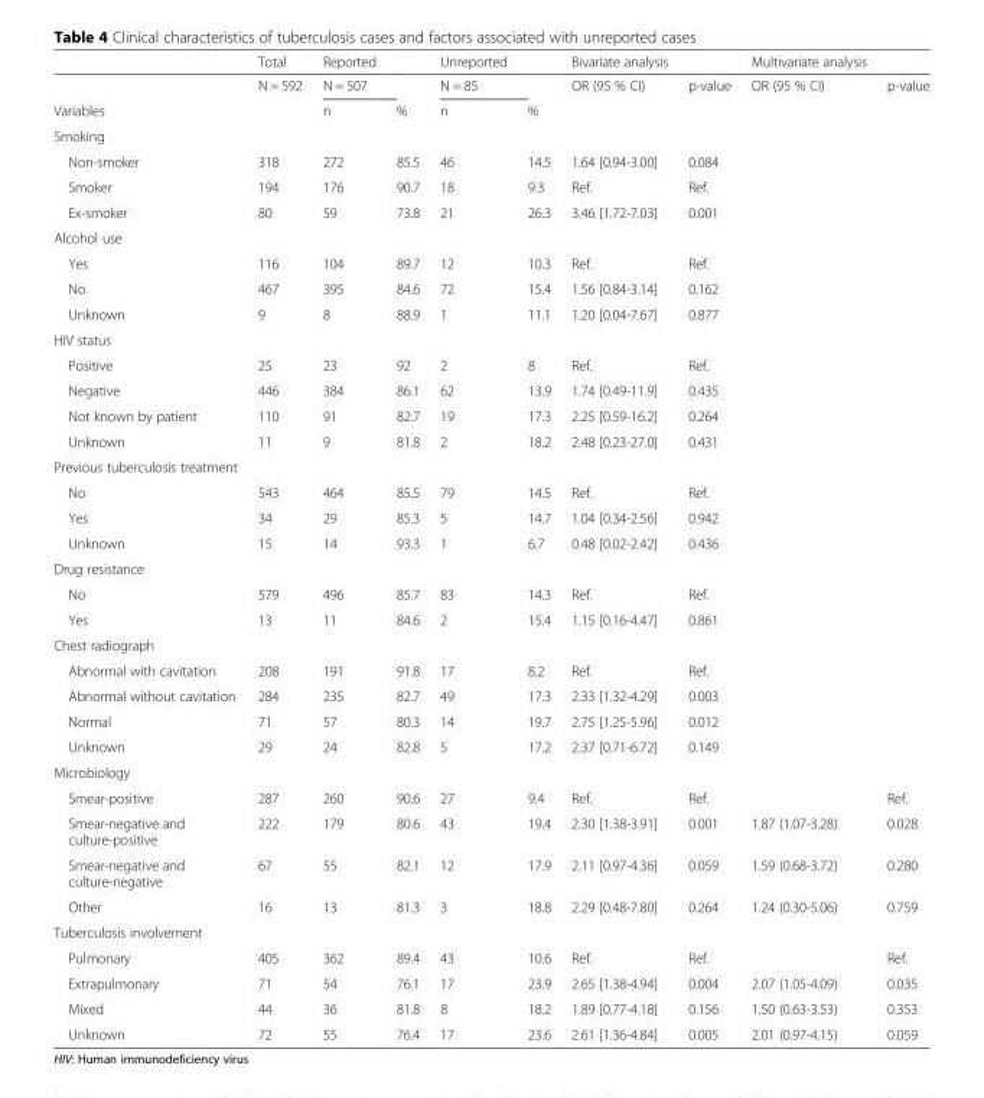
<table><thead><tr><td></td><td>Total</td><td>Reported</td><td></td><td>Unreported</td><td></td><td>Bivariate analysis</td><td></td><td>Multivariate analysis</td><td></td></tr></thead><tbody><tr><td></td><td>N = 592</td><td>N = 507</td><td></td><td>N = 85</td><td></td><td>OR (95 % CI)</td><td>p-value</td><td>OR (95 % CI)</td><td>p-value</td></tr><tr><td>Variables</td><td></td><td>n</td><td>%</td><td>n</td><td>%</td><td></td><td></td><td></td><td></td></tr><tr><td colspan="10">Smoking</td></tr><tr><td>Non-smoker</td><td>318</td><td>272</td><td>85.5</td><td>46</td><td>14.5</td><td>1.64 [0.94-3.00]</td><td>0.084</td><td></td><td></td></tr><tr><td>Smoker</td><td>194</td><td>176</td><td>90.7</td><td>18</td><td>9.3</td><td>Ref.</td><td>Ref.</td><td></td><td></td></tr><tr><td>Ex-smoker</td><td>80</td><td>59</td><td>73.8</td><td>21</td><td>26.3</td><td>3.46 [1.72-7.03]</td><td>0.001</td><td></td><td></td></tr><tr><td colspan="10">Alcohol use</td></tr><tr><td>Yes</td><td>116</td><td>104</td><td>89.7</td><td>12</td><td>10.3</td><td>Ref.</td><td>Ref.</td><td></td><td></td></tr><tr><td>No</td><td>467</td><td>395</td><td>84.6</td><td>72</td><td>15.4</td><td>1.56 [0.84-3.14]</td><td>0.162</td><td></td><td></td></tr><tr><td>Unknown</td><td>9</td><td>8</td><td>88.9</td><td>1</td><td>11.1</td><td>1.20 [0.04-7.67]</td><td>0.877</td><td></td><td></td></tr><tr><td colspan="10">HIV status</td></tr><tr><td>Positive</td><td>25</td><td>23</td><td>92</td><td>2</td><td>8</td><td>Ref.</td><td>Ref.</td><td></td><td></td></tr><tr><td>Negative</td><td>446</td><td>384</td><td>86.1</td><td>62</td><td>13.9</td><td>1.74 [0.49-11.9]</td><td>0.435</td><td></td><td></td></tr><tr><td>Not known by patient</td><td>110</td><td>91</td><td>82.7</td><td>19</td><td>17.3</td><td>2.25 [0.59-16.2]</td><td>0.264</td><td></td><td></td></tr><tr><td>Unknown</td><td>11</td><td>9</td><td>81.8</td><td>2</td><td>18.2</td><td>2.48 [0.23-27.0]</td><td>0.431</td><td></td><td></td></tr><tr><td colspan="10">Previous tuberculosis treatment</td></tr><tr><td>No</td><td>543</td><td>464</td><td>85.5</td><td>79</td><td>14.5</td><td>Ref.</td><td>Ref.</td><td></td><td></td></tr><tr><td>Yes</td><td>34</td><td>29</td><td>85.3</td><td>5</td><td>14.7</td><td>1.04 [0.34-2.56]</td><td>0.942</td><td></td><td></td></tr><tr><td>Unknown</td><td>15</td><td>14</td><td>93.3</td><td>1</td><td>6.7</td><td>0.48 [0.02-2.42]</td><td>0.436</td><td></td><td></td></tr><tr><td colspan="10">Drug resistance</td></tr><tr><td>No</td><td>579</td><td>496</td><td>85.7</td><td>83</td><td>14.3</td><td>Ref.</td><td>Ref.</td><td></td><td></td></tr><tr><td>Yes</td><td>13</td><td>11</td><td>84.6</td><td>2</td><td>15.4</td><td>1.15 [0.16-4.47]</td><td>0.861</td><td></td><td></td></tr><tr><td colspan="10">Chest radiograph</td></tr><tr><td>Abnormal with cavitation</td><td>208</td><td>191</td><td>91.8</td><td>17</td><td>8.2</td><td>Ref.</td><td>Ref.</td><td></td><td></td></tr><tr><td>Abnormal without cavitation</td><td>284</td><td>235</td><td>82.7</td><td>49</td><td>17.3</td><td>2.33 [1.32-4.29]</td><td>0.003</td><td></td><td></td></tr><tr><td>Normal</td><td>71</td><td>57</td><td>80.3</td><td>14</td><td>19.7</td><td>2.75 [1.25-5.96]</td><td>0.012</td><td></td><td></td></tr><tr><td>Unknown</td><td>29</td><td>24</td><td>82.8</td><td>5</td><td>17.2</td><td>2.37 [0.71-6.72]</td><td>0.149</td><td></td><td></td></tr><tr><td colspan="10">Microbiology</td></tr><tr><td>Smear-positive</td><td>287</td><td>260</td><td>90.6</td><td>27</td><td>9.4</td><td>Ref.</td><td>Ref.</td><td></td><td>Ref.</td></tr><tr><td>Smear-negative and culture-positive</td><td>222</td><td>179</td><td>80.6</td><td>43</td><td>19.4</td><td>2.30 [1.38-3.91]</td><td>0.001</td><td>1.87 (1.07-3.28)</td><td>0.028</td></tr><tr><td>Smear-negative and culture-negative</td><td>67</td><td>55</td><td>82.1</td><td>12</td><td>17.9</td><td>2.11 [0.97-4.36]</td><td>0.059</td><td>1.59 (0.68-3.72)</td><td>0.280</td></tr><tr><td>Other</td><td>16</td><td>13</td><td>81.3</td><td>3</td><td>18.8</td><td>2.29 [0.48-7.80]</td><td>0.264</td><td>1.24 (0.30-5.06)</td><td>0.759</td></tr><tr><td colspan="10">Tuberculosis involvement</td></tr><tr><td>Pulmonary</td><td>405</td><td>362</td><td>89.4</td><td>43</td><td>10.6</td><td>Ref.</td><td>Ref.</td><td></td><td>Ref.</td></tr><tr><td>Extrapulmonary</td><td>71</td><td>54</td><td>76.1</td><td>17</td><td>23.9</td><td>2.65 [1.38-4.94]</td><td>0.004</td><td>2.07 (1.05-4.09)</td><td>0.035</td></tr><tr><td>Mixed</td><td>44</td><td>36</td><td>81.8</td><td>8</td><td>18.2</td><td>1.89 [0.77-4.18]</td><td>0.156</td><td>1.50 (0.63-3.53)</td><td>0.353</td></tr><tr><td>Unknown</td><td>72</td><td>55</td><td>76.4</td><td>17</td><td>23.6</td><td>2.61 [1.36-4.84]</td><td>0.005</td><td>2.01 (0.97-4.15)</td><td>0.059</td></tr></tbody></table>